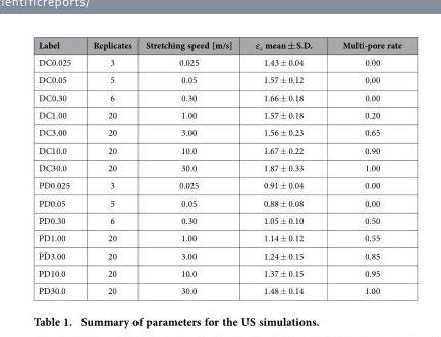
<table><thead><tr><td>Label</td><td>Replicates</td><td>Stretching speed [m/s]</td><td>ε<sub>c</sub> mean ± S.D.</td><td>Multi-pore rate</td></tr></thead><tbody><tr><td>DC0.025</td><td>3</td><td>0.025</td><td>1.43 ± 0.04</td><td>0.00</td></tr><tr><td>DC0.05</td><td>5</td><td>0.05</td><td>1.57 ± 0.12</td><td>0.00</td></tr><tr><td>DC0.30</td><td>6</td><td>0.30</td><td>1.66 ± 0.18</td><td>0.00</td></tr><tr><td>DC1.00</td><td>20</td><td>1.00</td><td>1.57 ± 0.18</td><td>0.20</td></tr><tr><td>DC3.00</td><td>20</td><td>3.00</td><td>1.56 ± 0.23</td><td>0.65</td></tr><tr><td>DC10.0</td><td>20</td><td>10.0</td><td>1.67 ± 0.22</td><td>0.90</td></tr><tr><td>DC30.0</td><td>20</td><td>30.0</td><td>1.87 ± 0.33</td><td>1.00</td></tr><tr><td>PD0.025</td><td>3</td><td>0.025</td><td>0.91 ± 0.04</td><td>0.00</td></tr><tr><td>PD0.05</td><td>5</td><td>0.05</td><td>0.88 ± 0.08</td><td>0.00</td></tr><tr><td>PD0.30</td><td>6</td><td>0.30</td><td>1.05 ± 0.10</td><td>0.50</td></tr><tr><td>PD1.00</td><td>20</td><td>1.00</td><td>1.14 ± 0.12</td><td>0.55</td></tr><tr><td>PD3.00</td><td>20</td><td>3.00</td><td>1.24 ± 0.15</td><td>0.85</td></tr><tr><td>PD10.0</td><td>20</td><td>10.0</td><td>1.37 ± 0.15</td><td>0.95</td></tr><tr><td>PD30.0</td><td>20</td><td>30.0</td><td>1.48 ± 0.14</td><td>1.00</td></tr></tbody></table>